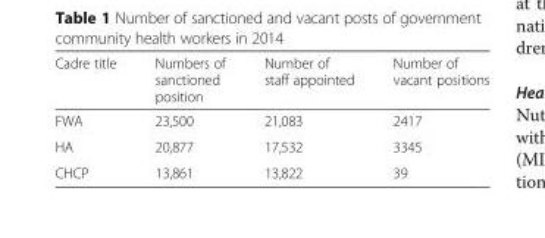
<table><thead><tr><td>Cadre title</td><td>Numbers of sanctioned position</td><td>Number of staff appointed</td><td>Number of vacant positions</td></tr></thead><tbody><tr><td>FWA</td><td>23,500</td><td>21,083</td><td>2417</td></tr><tr><td>HA</td><td>20,877</td><td>17,532</td><td>3345</td></tr><tr><td>CHCP</td><td>13,861</td><td>13,822</td><td>39</td></tr></tbody></table>